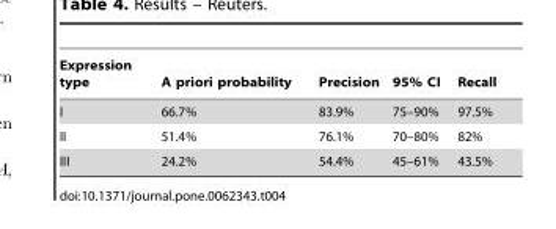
<table><thead><tr><td>Expression type</td><td>A priori probability</td><td>Precision</td><td>95% CI</td><td>Recall</td></tr></thead><tbody><tr><td>I</td><td>66.7%</td><td>83.9%</td><td>75–90%</td><td>97.5%</td></tr><tr><td>II</td><td>51.4%</td><td>76.1%</td><td>70–80%</td><td>82%</td></tr><tr><td>III</td><td>24.2%</td><td>54.4%</td><td>45–61%</td><td>43.5%</td></tr></tbody></table>